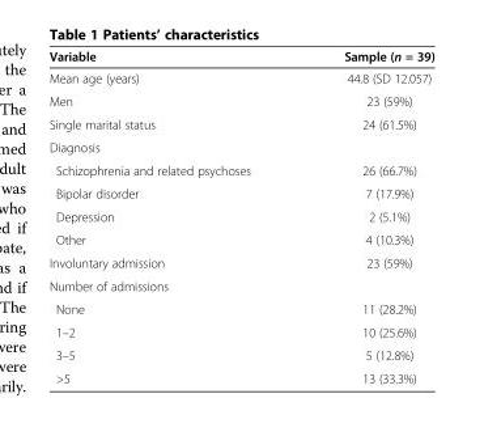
<table><thead><tr><td>Variable</td><td>Sample (n = 39)</td></tr></thead><tbody><tr><td>Mean age (years)</td><td>44.8 (SD 12.057)</td></tr><tr><td>Men</td><td>23 (59%)</td></tr><tr><td>Single marital status</td><td>24 (61.5%)</td></tr><tr><td colspan="2">Diagnosis</td></tr><tr><td>Schizophrenia and related psychoses</td><td>26 (66.7%)</td></tr><tr><td>Bipolar disorder</td><td>7 (17.9%)</td></tr><tr><td>Depression</td><td>2 (5.1%)</td></tr><tr><td>Other</td><td>4 (10.3%)</td></tr><tr><td>Involuntary admission</td><td>23 (59%)</td></tr><tr><td colspan="2">Number of admissions</td></tr><tr><td>None</td><td>11 (28.2%)</td></tr><tr><td>1–2</td><td>10 (25.6%)</td></tr><tr><td>3–5</td><td>5 (12.8%)</td></tr><tr><td>&gt;5</td><td>13 (33.3%)</td></tr></tbody></table>